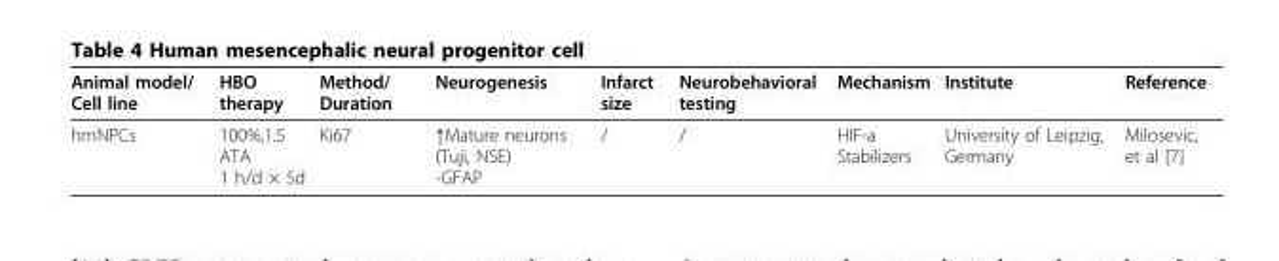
<table><thead><tr><td>Animal model/ Cell line</td><td>HBO therapy</td><td>Method/ Duration</td><td>Neurogenesis</td><td>Infarct size</td><td>Neurobehavioral testing</td><td>Mechanism</td><td>Institute</td><td>Reference</td></tr></thead><tbody><tr><td>hmNPCs</td><td>100%,1.5 ATA 1 h/d × 5d</td><td>Ki67</td><td>↑Mature neurons (Tuji, NSE) -GFAP</td><td>/</td><td>/</td><td>HIF-a Stabilizers</td><td>University of Leipzig, Germany</td><td>Milosevic, et al [7]</td></tr></tbody></table>